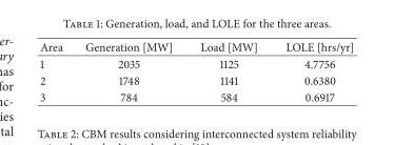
<table><thead><tr><td>Area</td><td>Generation [MW]</td><td>Load [MW]</td><td>LOLE [hrs/yr]</td></tr></thead><tbody><tr><td>1</td><td>2035</td><td>1125</td><td>4.7756</td></tr><tr><td>2</td><td>1748</td><td>1141</td><td>0.6380</td></tr><tr><td>3</td><td>784</td><td>584</td><td>0.6917</td></tr></tbody></table>